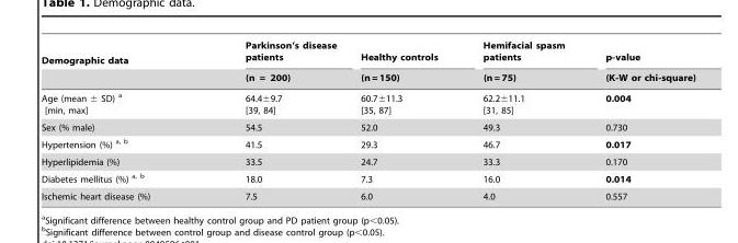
<table><thead><tr><td rowspan="2">Demographic data</td><td rowspan="2">Parkinson’s disease patients (n = 200)</td><td rowspan="2">Healthy controls (n = 150)</td><td rowspan="2">Hemifacial spasm patients (n = 75)</td><td rowspan="2">p-value (K-W or chi-square)</td></tr><tr></tr></thead><tbody><tr><td>Age (mean ± SD) a [min, max]</td><td>64.4±9.7 [39, 84]</td><td>60.7±11.3 [35, 87]</td><td>62.2±11.1 [31, 85]</td><td>0.004</td></tr><tr><td>Sex (% male)</td><td>54.5</td><td>52.0</td><td>49.3</td><td>0.730</td></tr><tr><td>Hypertension (%) a, b</td><td>41.5</td><td>29.3</td><td>46.7</td><td>0.017</td></tr><tr><td>Hyperlipidemia (%)</td><td>33.5</td><td>24.7</td><td>33.3</td><td>0.170</td></tr><tr><td>Diabetes mellitus (%) a, b</td><td>18.0</td><td>7.3</td><td>16.0</td><td>0.014</td></tr><tr><td>Ischemic heart disease (%)</td><td>7.5</td><td>6.0</td><td>4.0</td><td>0.557</td></tr></tbody></table>